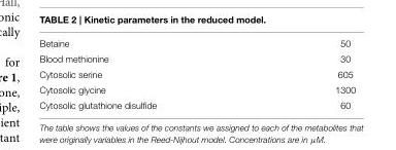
<table><tbody><tr><td>Betaine</td><td>50</td></tr><tr><td>Blood methionine</td><td>30</td></tr><tr><td>Cytosolic serine</td><td>605</td></tr><tr><td>Cytosolic glycine</td><td>1300</td></tr><tr><td>Cytosolic glutathione disulfide</td><td>60</td></tr></tbody></table>